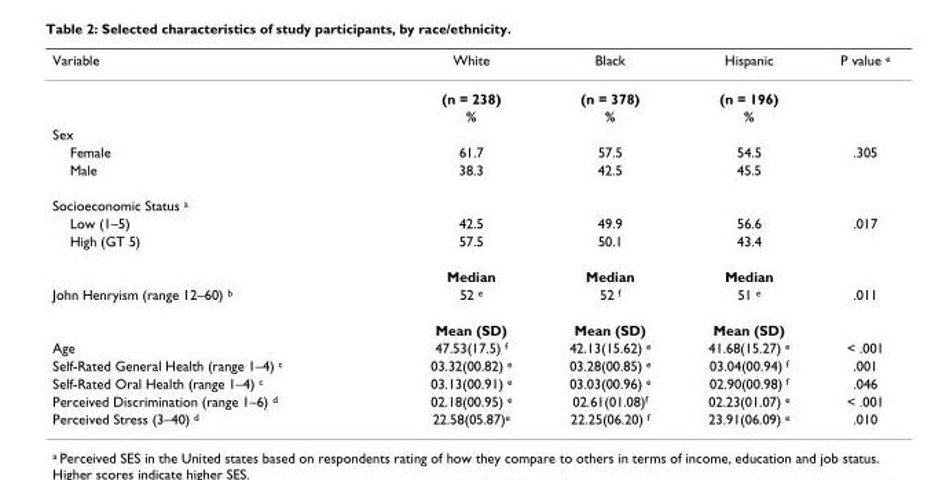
<table><thead><tr><td>Variable</td><td>White</td><td>Black</td><td>Hispanic</td><td>P value <sup>e</sup></td></tr></thead><tbody><tr><td></td><td>(n = 238)</td><td>(n = 378)</td><td>(n = 196)</td><td></td></tr><tr><td></td><td>%</td><td>%</td><td>%</td><td></td></tr><tr><td colspan="5">Sex</td></tr><tr><td>Female</td><td>61.7</td><td>57.5</td><td>54.5</td><td>.305</td></tr><tr><td>Male</td><td>38.3</td><td>42.5</td><td>45.5</td><td></td></tr><tr><td colspan="5">Socioeconomic Status <sup>a</sup></td></tr><tr><td>Low (1–5)</td><td>42.5</td><td>49.9</td><td>56.6</td><td>.017</td></tr><tr><td rowspan="2">High (GT 5)</td><td>57.5</td><td>50.1</td><td>43.4</td><td></td></tr><tr><td>Median</td><td>Median</td><td>Median</td><td></td></tr><tr><td rowspan="2">John Henryism (range 12–60) <sup>b</sup></td><td>52 <sup>e</sup></td><td>52 <sup>f</sup></td><td>51 <sup>e</sup></td><td>.011</td></tr><tr><td>Mean (SD)</td><td>Mean (SD)</td><td>Mean (SD)</td><td></td></tr><tr><td>Age</td><td>47.53(17.5) <sup>f</sup></td><td>42.13(15.62) <sup>e</sup></td><td>41.68(15.27) <sup>e</sup></td><td>&lt; .001</td></tr><tr><td>Self-Rated General Health (range 1–4) <sup>c</sup></td><td>03.32(00.82) <sup>e</sup></td><td>03.28(00.85) <sup>e</sup></td><td>03.04(00.94) <sup>f</sup></td><td>.001</td></tr><tr><td>Self-Rated Oral Health (range 1–4) <sup>c</sup></td><td>03.13(00.91) <sup>e</sup></td><td>03.03(00.96) <sup>e</sup></td><td>02.90(00.98) <sup>f</sup></td><td>.046</td></tr><tr><td>Perceived Discrimination (range 1–6) <sup>d</sup></td><td>02.18(00.95) <sup>e</sup></td><td>02.61(01.08)<sup>f</sup></td><td>02.23(01.07) <sup>e</sup></td><td>&lt; .001</td></tr><tr><td>Perceived Stress (3–40) <sup>d</sup></td><td>22.58(05.87)<sup>e</sup></td><td>22.25(06.20) <sup>f</sup></td><td>23.91(06.09) <sup>e</sup></td><td>.010</td></tr></tbody></table>